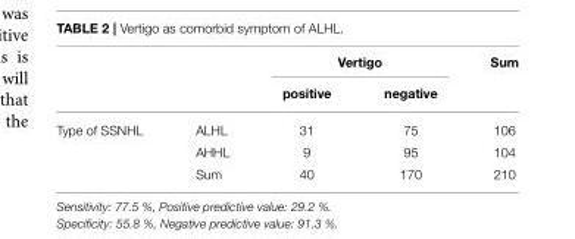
<table><thead><tr><td rowspan="2"></td><td rowspan="2"></td><td colspan="2">Vertigo</td><td rowspan="2">Sum</td></tr><tr><td>positive</td><td>negative</td></tr></thead><tbody><tr><td rowspan="3">Type of SSNHL</td><td>ALHL</td><td>31</td><td>75</td><td>106</td></tr><tr><td>AHHL</td><td>9</td><td>95</td><td>104</td></tr><tr><td>Sum</td><td>40</td><td>170</td><td>210</td></tr></tbody></table>